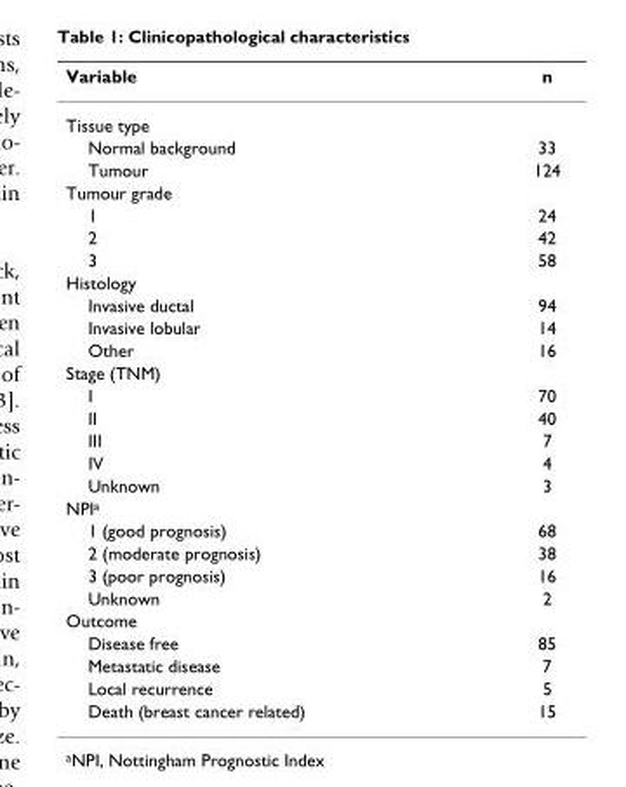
<table><thead><tr><td>Variable</td><td>n</td></tr></thead><tbody><tr><td colspan="2">Tissue type</td></tr><tr><td>Normal background</td><td>33</td></tr><tr><td>Tumour</td><td>124</td></tr><tr><td colspan="2">Tumour grade</td></tr><tr><td>1</td><td>24</td></tr><tr><td>2</td><td>42</td></tr><tr><td>3</td><td>58</td></tr><tr><td colspan="2">Histology</td></tr><tr><td>Invasive ductal</td><td>94</td></tr><tr><td>Invasive lobular</td><td>14</td></tr><tr><td>Other</td><td>16</td></tr><tr><td colspan="2">Stage (TNM)</td></tr><tr><td>I</td><td>70</td></tr><tr><td>II</td><td>40</td></tr><tr><td>III</td><td>7</td></tr><tr><td>IV</td><td>4</td></tr><tr><td>Unknown</td><td>3</td></tr><tr><td colspan="2">NPI<sup>a</sup></td></tr><tr><td>1 (good prognosis)</td><td>68</td></tr><tr><td>2 (moderate prognosis)</td><td>38</td></tr><tr><td>3 (poor prognosis)</td><td>16</td></tr><tr><td>Unknown</td><td>2</td></tr><tr><td colspan="2">Outcome</td></tr><tr><td>Disease free</td><td>85</td></tr><tr><td>Metastatic disease</td><td>7</td></tr><tr><td>Local recurrence</td><td>5</td></tr><tr><td>Death (breast cancer related)</td><td>15</td></tr></tbody></table>